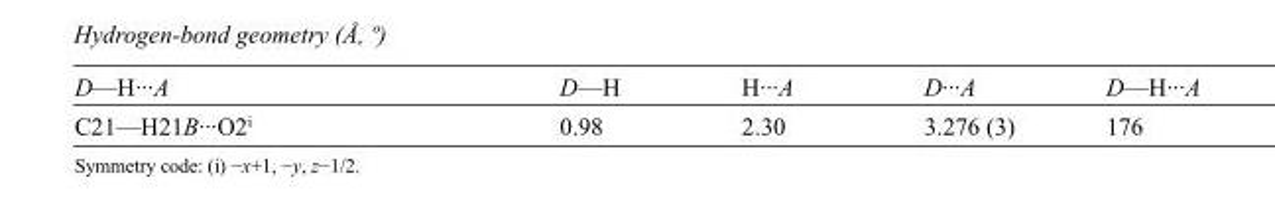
<table><tbody><tr><td>D—H···A</td><td>D—H</td><td>H···A</td><td>D···A</td><td>D—H···A</td></tr><tr><td>C21—H21B···O2<sup>i</sup></td><td>0.98</td><td>2.30</td><td>3.276 (3)</td><td>176</td></tr></tbody></table>